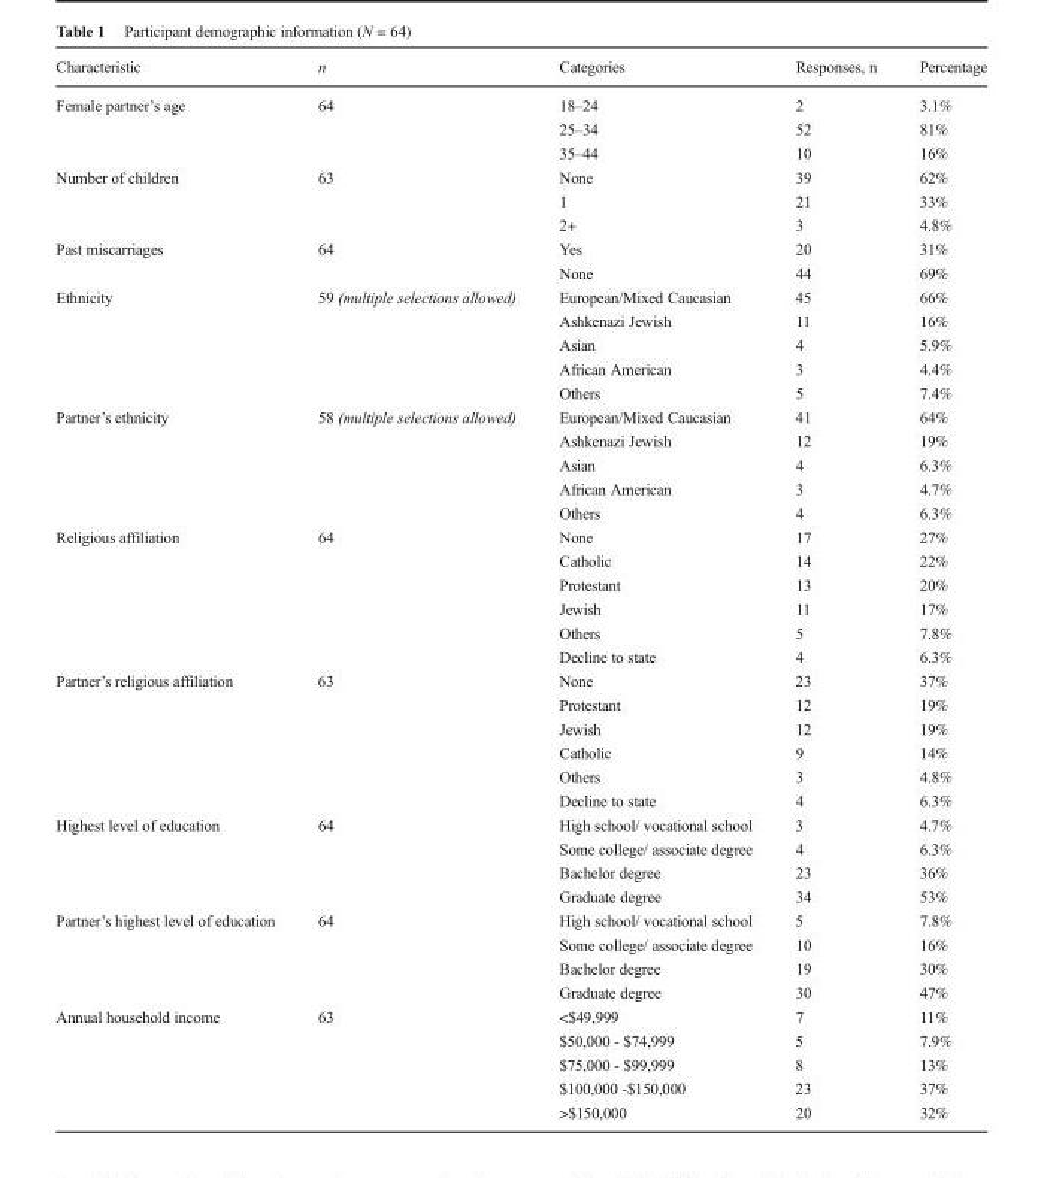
<table><thead><tr><td>Characteristic</td><td>n</td><td>Categories</td><td>Responses, n</td><td>Percentage</td></tr></thead><tbody><tr><td rowspan="3">Female partner’s age</td><td rowspan="3">64</td><td>18–24</td><td>2</td><td>3.1%</td></tr><tr><td>25–34</td><td>52</td><td>81%</td></tr><tr><td>35–44</td><td>10</td><td>16%</td></tr><tr><td rowspan="3">Number of children</td><td rowspan="3">63</td><td>None</td><td>39</td><td>62%</td></tr><tr><td>1</td><td>21</td><td>33%</td></tr><tr><td>2+</td><td>3</td><td>4.8%</td></tr><tr><td rowspan="2">Past miscarriages</td><td rowspan="2">64</td><td>Yes</td><td>20</td><td>31%</td></tr><tr><td>None</td><td>44</td><td>69%</td></tr><tr><td rowspan="5">Ethnicity</td><td rowspan="5">59 (multiple selections allowed)</td><td>European/Mixed Caucasian</td><td>45</td><td>66%</td></tr><tr><td>Ashkenazi Jewish</td><td>11</td><td>16%</td></tr><tr><td>Asian</td><td>4</td><td>5.9%</td></tr><tr><td>African American</td><td>3</td><td>4.4%</td></tr><tr><td>Others</td><td>5</td><td>7.4%</td></tr><tr><td rowspan="5">Partner’s ethnicity</td><td rowspan="5">58 (multiple selections allowed)</td><td>European/Mixed Caucasian</td><td>41</td><td>64%</td></tr><tr><td>Ashkenazi Jewish</td><td>12</td><td>19%</td></tr><tr><td>Asian</td><td>4</td><td>6.3%</td></tr><tr><td>African American</td><td>3</td><td>4.7%</td></tr><tr><td>Others</td><td>4</td><td>6.3%</td></tr><tr><td rowspan="6">Religious affiliation</td><td rowspan="6">64</td><td>None</td><td>17</td><td>27%</td></tr><tr><td>Catholic</td><td>14</td><td>22%</td></tr><tr><td>Protestant</td><td>13</td><td>20%</td></tr><tr><td>Jewish</td><td>11</td><td>17%</td></tr><tr><td>Others</td><td>5</td><td>7.8%</td></tr><tr><td>Decline to state</td><td>4</td><td>6.3%</td></tr><tr><td rowspan="6">Partner’s religious affiliation</td><td rowspan="6">63</td><td>None</td><td>23</td><td>37%</td></tr><tr><td>Protestant</td><td>12</td><td>19%</td></tr><tr><td>Jewish</td><td>12</td><td>19%</td></tr><tr><td>Catholic</td><td>9</td><td>14%</td></tr><tr><td>Others</td><td>3</td><td>4.8%</td></tr><tr><td>Decline to state</td><td>4</td><td>6.3%</td></tr><tr><td rowspan="4">Highest level of education</td><td rowspan="4">64</td><td>High school/ vocational school</td><td>3</td><td>4.7%</td></tr><tr><td>Some college/ associate degree</td><td>4</td><td>6.3%</td></tr><tr><td>Bachelor degree</td><td>23</td><td>36%</td></tr><tr><td>Graduate degree</td><td>34</td><td>53%</td></tr><tr><td rowspan="4">Partner’s highest level of education</td><td rowspan="4">64</td><td>High school/ vocational school</td><td>5</td><td>7.8%</td></tr><tr><td>Some college/ associate degree</td><td>10</td><td>16%</td></tr><tr><td>Bachelor degree</td><td>19</td><td>30%</td></tr><tr><td>Graduate degree</td><td>30</td><td>47%</td></tr><tr><td rowspan="5">Annual household income</td><td rowspan="5">63</td><td>&lt;$49,999</td><td>7</td><td>11%</td></tr><tr><td>$50,000 - $74,999</td><td>5</td><td>7.9%</td></tr><tr><td>$75,000 - $99,999</td><td>8</td><td>13%</td></tr><tr><td>$100,000 -$150,000</td><td>23</td><td>37%</td></tr><tr><td>&gt;$150,000</td><td>20</td><td>32%</td></tr></tbody></table>